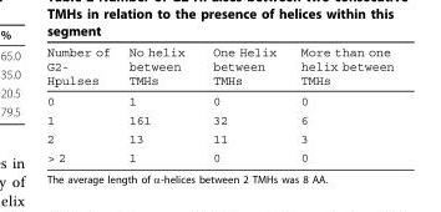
<table><thead><tr><td>Number of G2- Hpulses</td><td>No helix between TMHs</td><td>One Helix between TMHs</td><td>More than one helix between TMHs</td></tr></thead><tbody><tr><td>0</td><td>1</td><td>0</td><td>0</td></tr><tr><td>1</td><td>161</td><td>32</td><td>6</td></tr><tr><td>2</td><td>13</td><td>11</td><td>3</td></tr><tr><td>&gt; 2</td><td>1</td><td>0</td><td>0</td></tr></tbody></table>